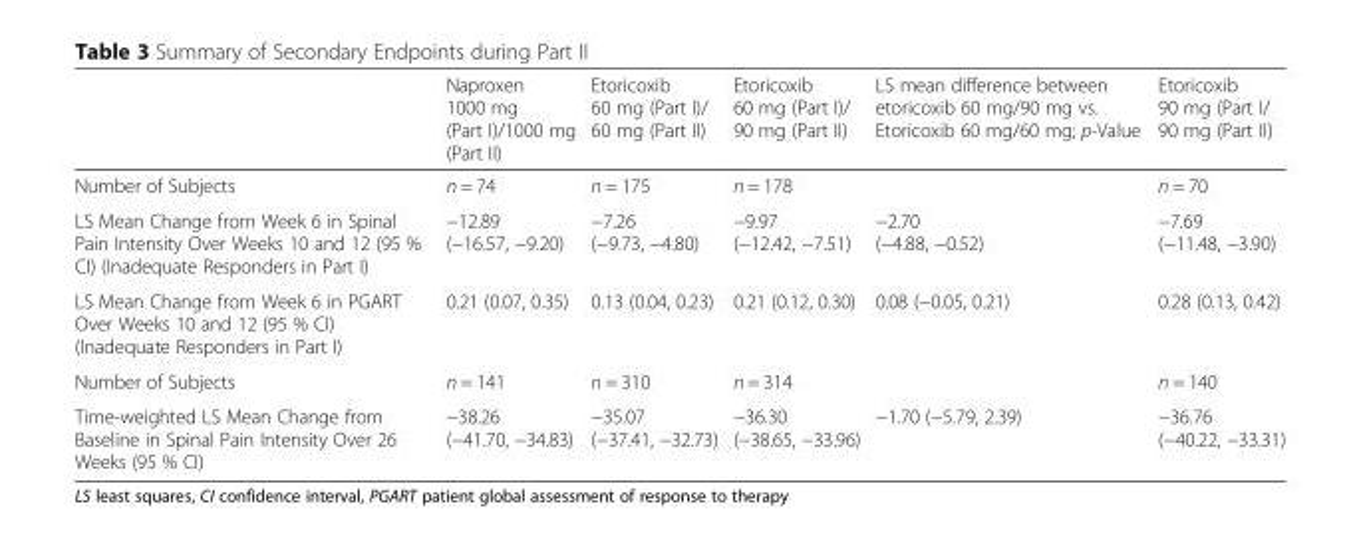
<table><thead><tr><td></td><td>Naproxen 1000 mg (Part I)/1000 mg (Part II)</td><td>Etoricoxib 60 mg (Part I)/ 60 mg (Part II)</td><td>Etoricoxib 60 mg (Part I)/ 90 mg (Part II)</td><td>LS mean difference between etoricoxib 60 mg/90 mg vs. Etoricoxib 60 mg/60 mg; p-Value</td><td>Etoricoxib 90 mg (Part I/ 90 mg (Part II)</td></tr></thead><tbody><tr><td>Number of Subjects</td><td>n = 74</td><td>n = 175</td><td>n = 178</td><td></td><td>n = 70</td></tr><tr><td>LS Mean Change from Week 6 in Spinal Pain Intensity Over Weeks 10 and 12 (95 % CI) (Inadequate Responders in Part I)</td><td>−12.89 (−16.57, −9.20)</td><td>−7.26 (−9.73, −4.80)</td><td>−9.97 (−12.42, −7.51)</td><td>−2.70 (−4.88, −0.52)</td><td>−7.69 (−11.48, −3.90)</td></tr><tr><td>LS Mean Change from Week 6 in PGART Over Weeks 10 and 12 (95 % CI) (Inadequate Responders in Part I)</td><td>0.21 (0.07, 0.35)</td><td>0.13 (0.04, 0.23)</td><td>0.21 (0.12, 0.30)</td><td>0.08 (−0.05, 0.21)</td><td>0.28 (0.13, 0.42)</td></tr><tr><td>Number of Subjects</td><td>n = 141</td><td>n = 310</td><td>n = 314</td><td></td><td>n = 140</td></tr><tr><td>Time-weighted LS Mean Change from Baseline in Spinal Pain Intensity Over 26 Weeks (95 % CI)</td><td>−38.26 (−41.70, −34.83)</td><td>−35.07 (−37.41, −32.73)</td><td>−36.30 (−38.65, −33.96)</td><td>−1.70 (−5.79, 2.39)</td><td>−36.76 (−40.22, −33.31)</td></tr></tbody></table>